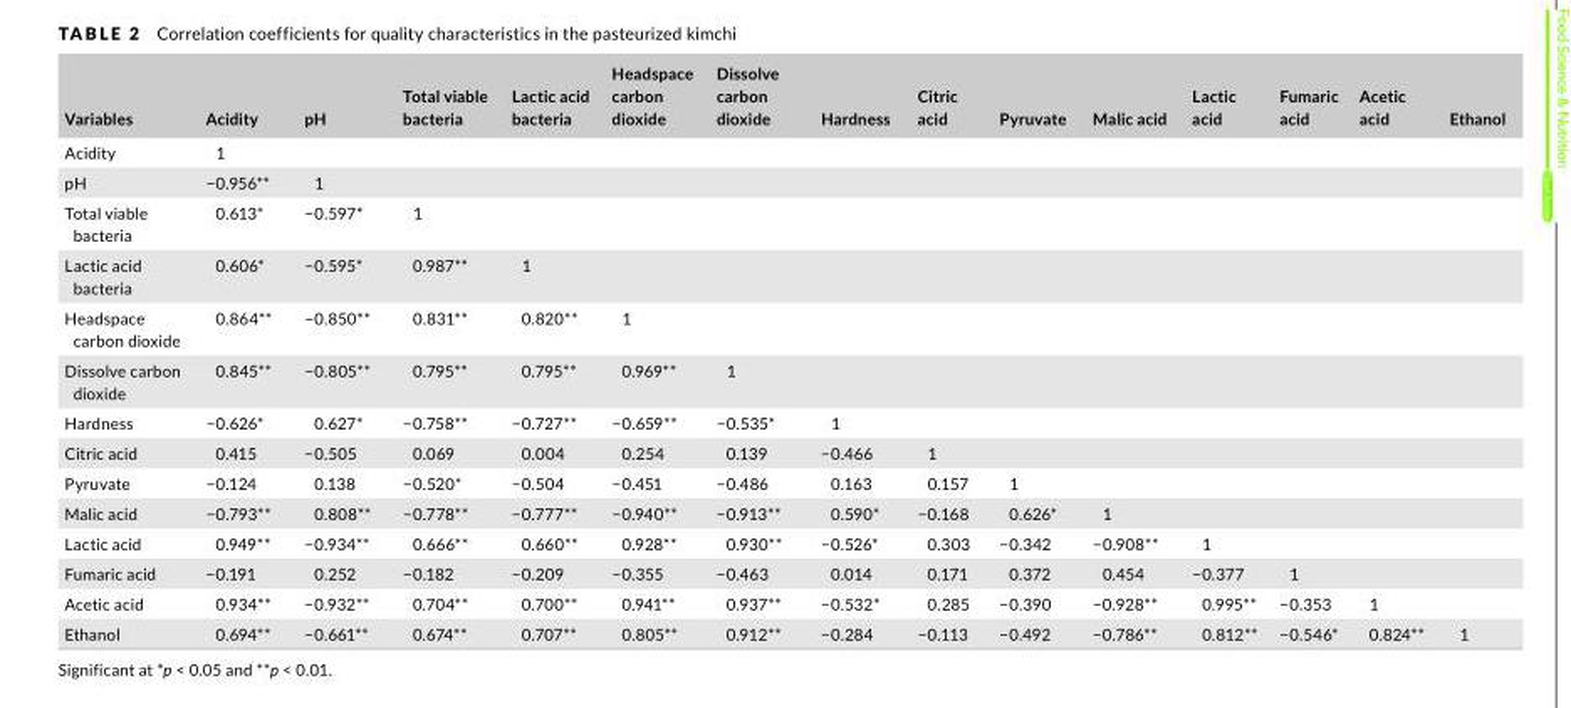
<table><thead><tr><td>Variables</td><td>Acidity</td><td>pH</td><td>Total viable bacteria</td><td>Lactic acid bacteria</td><td>Headspace carbon dioxide</td><td>Dissolve carbon dioxide</td><td>Hardness</td><td>Citric acid</td><td>Pyruvate</td><td>Malic acid</td><td>Lactic acid</td><td>Fumaric acid</td><td>Acetic acid</td><td>Ethanol</td></tr></thead><tbody><tr><td>Acidity</td><td>1</td><td></td><td></td><td></td><td></td><td></td><td></td><td></td><td></td><td></td><td></td><td></td><td></td><td></td></tr><tr><td>pH</td><td>−0.956**</td><td>1</td><td></td><td></td><td></td><td></td><td></td><td></td><td></td><td></td><td></td><td></td><td></td><td></td></tr><tr><td>Total viable bacteria</td><td>0.613*</td><td>−0.597*</td><td>1</td><td></td><td></td><td></td><td></td><td></td><td></td><td></td><td></td><td></td><td></td><td></td></tr><tr><td>Lactic acid bacteria</td><td>0.606*</td><td>−0.595*</td><td>0.987**</td><td>1</td><td></td><td></td><td></td><td></td><td></td><td></td><td></td><td></td><td></td><td></td></tr><tr><td>Headspace carbon dioxide</td><td>0.864**</td><td>−0.850**</td><td>0.831**</td><td>0.820**</td><td>1</td><td></td><td></td><td></td><td></td><td></td><td></td><td></td><td></td><td></td></tr><tr><td>Dissolve carbon dioxide</td><td>0.845**</td><td>−0.805**</td><td>0.795**</td><td>0.795**</td><td>0.969**</td><td>1</td><td></td><td></td><td></td><td></td><td></td><td></td><td></td><td></td></tr><tr><td>Hardness</td><td>−0.626*</td><td>0.627*</td><td>−0.758**</td><td>−0.727**</td><td>−0.659**</td><td>−0.535*</td><td>1</td><td></td><td></td><td></td><td></td><td></td><td></td><td></td></tr><tr><td>Citric acid</td><td>0.415</td><td>−0.505</td><td>0.069</td><td>0.004</td><td>0.254</td><td>0.139</td><td>−0.466</td><td>1</td><td></td><td></td><td></td><td></td><td></td><td></td></tr><tr><td>Pyruvate</td><td>−0.124</td><td>0.138</td><td>−0.520*</td><td>−0.504</td><td>−0.451</td><td>−0.486</td><td>0.163</td><td>0.157</td><td>1</td><td></td><td></td><td></td><td></td><td></td></tr><tr><td>Malic acid</td><td>−0.793**</td><td>0.808**</td><td>−0.778**</td><td>−0.777**</td><td>−0.940**</td><td>−0.913**</td><td>0.590*</td><td>−0.168</td><td>0.626*</td><td>1</td><td></td><td></td><td></td><td></td></tr><tr><td>Lactic acid</td><td>0.949**</td><td>−0.934**</td><td>0.666**</td><td>0.660**</td><td>0.928**</td><td>0.930**</td><td>−0.526*</td><td>0.303</td><td>−0.342</td><td>−0.908**</td><td>1</td><td></td><td></td><td></td></tr><tr><td>Fumaric acid</td><td>−0.191</td><td>0.252</td><td>−0.182</td><td>−0.209</td><td>−0.355</td><td>−0.463</td><td>0.014</td><td>0.171</td><td>0.372</td><td>0.454</td><td>−0.377</td><td>1</td><td></td><td></td></tr><tr><td>Acetic acid</td><td>0.934**</td><td>−0.932**</td><td>0.704**</td><td>0.700**</td><td>0.941**</td><td>0.937**</td><td>−0.532*</td><td>0.285</td><td>−0.390</td><td>−0.928**</td><td>0.995**</td><td>−0.353</td><td>1</td><td></td></tr><tr><td>Ethanol</td><td>0.694**</td><td>−0.661**</td><td>0.674**</td><td>0.707**</td><td>0.805**</td><td>0.912**</td><td>−0.284</td><td>−0.113</td><td>−0.492</td><td>−0.786**</td><td>0.812**</td><td>−0.546*</td><td>0.824**</td><td>1</td></tr></tbody></table>